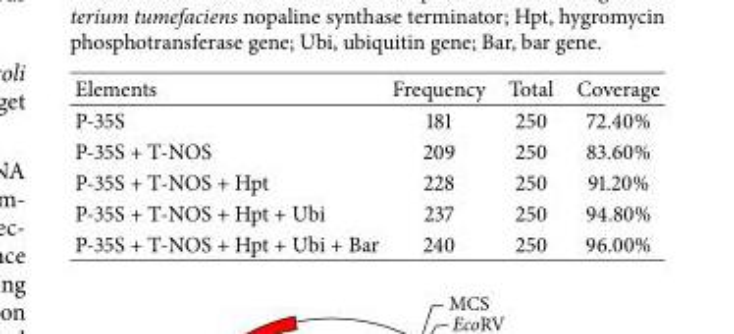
<table><thead><tr><td>Elements</td><td>Frequency</td><td>Total</td><td>Coverage</td></tr></thead><tbody><tr><td>P-35S</td><td>181</td><td>250</td><td>72.40%</td></tr><tr><td>P-35S + T-NOS</td><td>209</td><td>250</td><td>83.60%</td></tr><tr><td>P-35S + T-NOS + Hpt</td><td>228</td><td>250</td><td>91.20%</td></tr><tr><td>P-35S + T-NOS + Hpt + Ubi</td><td>237</td><td>250</td><td>94.80%</td></tr><tr><td>P-35S + T-NOS + Hpt + Ubi + Bar</td><td>240</td><td>250</td><td>96.00%</td></tr></tbody></table>